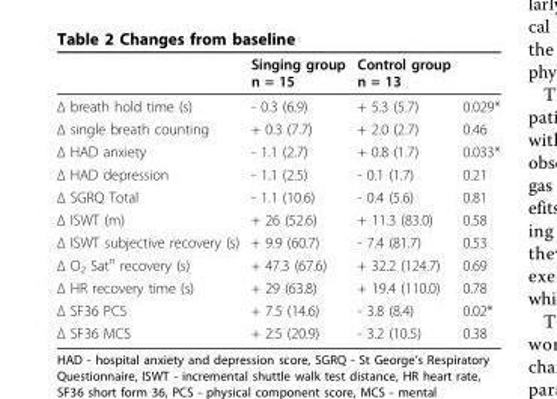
<table><thead><tr><td></td><td>Singing group n = 15</td><td>Control group n = 13</td><td></td></tr></thead><tbody><tr><td>Δ breath hold time (s)</td><td>- 0.3 (6.9)</td><td>+ 5.3 (5.7)</td><td>0.029*</td></tr><tr><td>Δ single breath counting</td><td>+ 0.3 (7.7)</td><td>+ 2.0 (2.7)</td><td>0.46</td></tr><tr><td>Δ HAD anxiety</td><td>- 1.1 (2.7)</td><td>+ 0.8 (1.7)</td><td>0.033*</td></tr><tr><td>Δ HAD depression</td><td>- 1.1 (2.5)</td><td>- 0.1 (1.7)</td><td>0.21</td></tr><tr><td>Δ SGRQ Total</td><td>- 1.1 (10.6)</td><td>- 0.4 (5.6)</td><td>0.81</td></tr><tr><td>Δ ISWT (m)</td><td>+ 26 (52.6)</td><td>+ 11.3 (83.0)</td><td>0.58</td></tr><tr><td>Δ ISWT subjective recovery (s)</td><td>+ 9.9 (60.7)</td><td>- 7.4 (81.7)</td><td>0.53</td></tr><tr><td>Δ O<sub>2</sub> Sat<sup>n</sup> recovery (s)</td><td>+ 47.3 (67.6)</td><td>+ 32.2 (124.7)</td><td>0.69</td></tr><tr><td>Δ HR recovery time (s)</td><td>+ 29 (63.8)</td><td>+ 19.4 (110.0)</td><td>0.78</td></tr><tr><td>Δ SF36 PCS</td><td>+ 7.5 (14.6)</td><td>- 3.8 (8.4)</td><td>0.02*</td></tr><tr><td>Δ SF36 MCS</td><td>+ 2.5 (20.9)</td><td>- 3.2 (10.5)</td><td>0.38</td></tr></tbody></table>